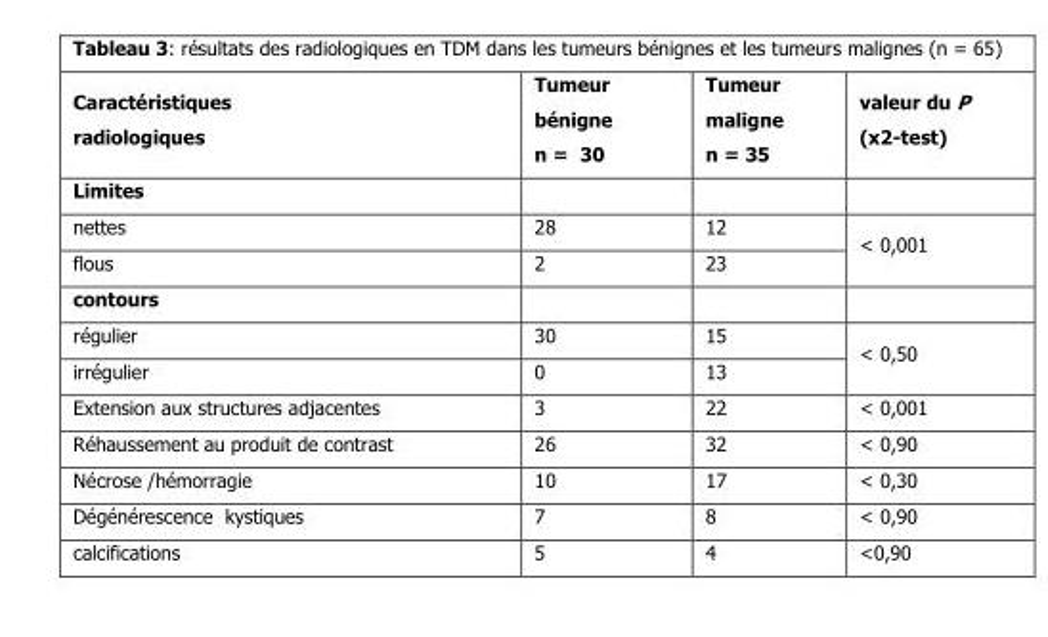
<table><thead><tr><td>Caractéristiques radiologiques</td><td>Tumeur bénigne n = 30</td><td>Tumeur maligne n = 35</td><td>valeur du P (x2-test)</td></tr></thead><tbody><tr><td colspan="4">Limites</td></tr><tr><td>nettes</td><td>28</td><td>12</td><td rowspan="2">&lt; 0,001</td></tr><tr><td>flous</td><td>2</td><td>23</td></tr><tr><td colspan="4">contours</td></tr><tr><td>régulier</td><td>30</td><td>15</td><td rowspan="2">&lt; 0,50</td></tr><tr><td>irrégulier</td><td>0</td><td>13</td></tr><tr><td>Extension aux structures adjacentes</td><td>3</td><td>22</td><td>&lt; 0,001</td></tr><tr><td>Réhaussement au produit de contrast</td><td>26</td><td>32</td><td>&lt; 0,90</td></tr><tr><td>Nécrose /hémorragie</td><td>10</td><td>17</td><td>&lt; 0,30</td></tr><tr><td>Dégénérescence kystiques</td><td>7</td><td>8</td><td>&lt; 0,90</td></tr><tr><td>calcifications</td><td>5</td><td>4</td><td>&lt;0,90</td></tr></tbody></table>